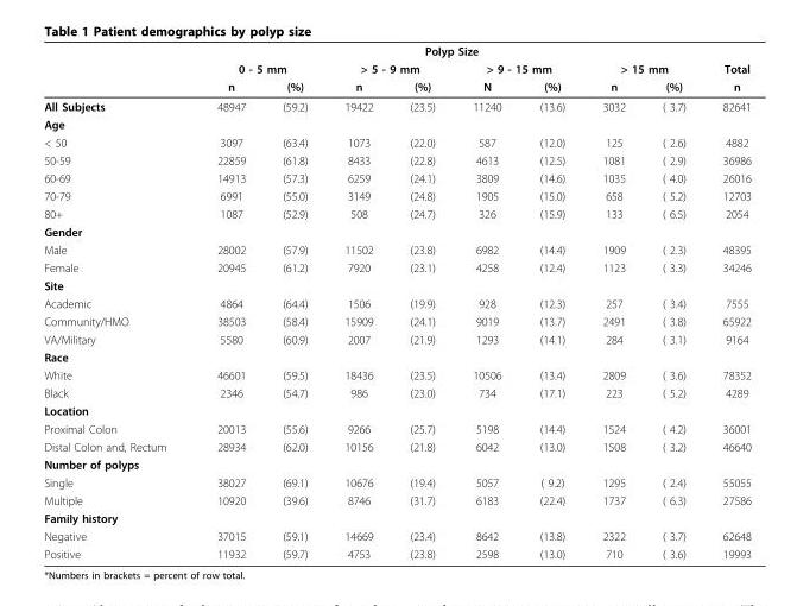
<table><thead><tr><td rowspan="3"></td><td colspan="8">Polyp Size</td><td rowspan="3">Total n</td></tr><tr><td colspan="2">0 - 5 mm</td><td colspan="2">&gt; 5 - 9 mm</td><td colspan="2">&gt; 9 - 15 mm</td><td colspan="2">&gt; 15 mm</td></tr><tr><td>n</td><td>(%)</td><td>n</td><td>(%)</td><td>N</td><td>(%)</td><td>n</td><td>(%)</td></tr></thead><tbody><tr><td>All Subjects</td><td>48947</td><td>(59.2)</td><td>19422</td><td>(23.5)</td><td>11240</td><td>(13.6)</td><td>3032</td><td>( 3.7)</td><td>82641</td></tr><tr><td colspan="10">Age</td></tr><tr><td>&lt; 50</td><td>3097</td><td>(63.4)</td><td>1073</td><td>(22.0)</td><td>587</td><td>(12.0)</td><td>125</td><td>( 2.6)</td><td>4882</td></tr><tr><td>50-59</td><td>22859</td><td>(61.8)</td><td>8433</td><td>(22.8)</td><td>4613</td><td>(12.5)</td><td>1081</td><td>( 2.9)</td><td>36986</td></tr><tr><td>60-69</td><td>14913</td><td>(57.3)</td><td>6259</td><td>(24.1)</td><td>3809</td><td>(14.6)</td><td>1035</td><td>( 4.0)</td><td>26016</td></tr><tr><td>70-79</td><td>6991</td><td>(55.0)</td><td>3149</td><td>(24.8)</td><td>1905</td><td>(15.0)</td><td>658</td><td>( 5.2)</td><td>12703</td></tr><tr><td>80+</td><td>1087</td><td>(52.9)</td><td>508</td><td>(24.7)</td><td>326</td><td>(15.9)</td><td>133</td><td>( 6.5)</td><td>2054</td></tr><tr><td colspan="10">Gender</td></tr><tr><td>Male</td><td>28002</td><td>(57.9)</td><td>11502</td><td>(23.8)</td><td>6982</td><td>(14.4)</td><td>1909</td><td>( 2.3)</td><td>48395</td></tr><tr><td>Female</td><td>20945</td><td>(61.2)</td><td>7920</td><td>(23.1)</td><td>4258</td><td>(12.4)</td><td>1123</td><td>( 3.3)</td><td>34246</td></tr><tr><td colspan="10">Site</td></tr><tr><td>Academic</td><td>4864</td><td>(64.4)</td><td>1506</td><td>(19.9)</td><td>928</td><td>(12.3)</td><td>257</td><td>( 3.4)</td><td>7555</td></tr><tr><td>Community/HMO</td><td>38503</td><td>(58.4)</td><td>15909</td><td>(24.1)</td><td>9019</td><td>(13.7)</td><td>2491</td><td>( 3.8)</td><td>65922</td></tr><tr><td>VA/Military</td><td>5580</td><td>(60.9)</td><td>2007</td><td>(21.9)</td><td>1293</td><td>(14.1)</td><td>284</td><td>( 3.1)</td><td>9164</td></tr><tr><td colspan="10">Race</td></tr><tr><td>White</td><td>46601</td><td>(59.5)</td><td>18436</td><td>(23.5)</td><td>10506</td><td>(13.4)</td><td>2809</td><td>( 3.6)</td><td>78352</td></tr><tr><td>Black</td><td>2346</td><td>(54.7)</td><td>986</td><td>(23.0)</td><td>734</td><td>(17.1)</td><td>223</td><td>( 5.2)</td><td>4289</td></tr><tr><td colspan="10">Location</td></tr><tr><td>Proximal Colon</td><td>20013</td><td>(55.6)</td><td>9266</td><td>(25.7)</td><td>5198</td><td>(14.4)</td><td>1524</td><td>( 4.2)</td><td>36001</td></tr><tr><td>Distal Colon and, Rectum</td><td>28934</td><td>(62.0)</td><td>10156</td><td>(21.8)</td><td>6042</td><td>(13.0)</td><td>1508</td><td>( 3.2)</td><td>46640</td></tr><tr><td colspan="10">Number of polyps</td></tr><tr><td>Single</td><td>38027</td><td>(69.1)</td><td>10676</td><td>(19.4)</td><td>5057</td><td>( 9.2)</td><td>1295</td><td>( 2.4)</td><td>55055</td></tr><tr><td>Multiple</td><td>10920</td><td>(39.6)</td><td>8746</td><td>(31.7)</td><td>6183</td><td>(22.4)</td><td>1737</td><td>( 6.3)</td><td>27586</td></tr><tr><td colspan="10">Family history</td></tr><tr><td>Negative</td><td>37015</td><td>(59.1)</td><td>14669</td><td>(23.4)</td><td>8642</td><td>(13.8)</td><td>2322</td><td>( 3.7)</td><td>62648</td></tr><tr><td>Positive</td><td>11932</td><td>(59.7)</td><td>4753</td><td>(23.8)</td><td>2598</td><td>(13.0)</td><td>710</td><td>( 3.6)</td><td>19993</td></tr></tbody></table>